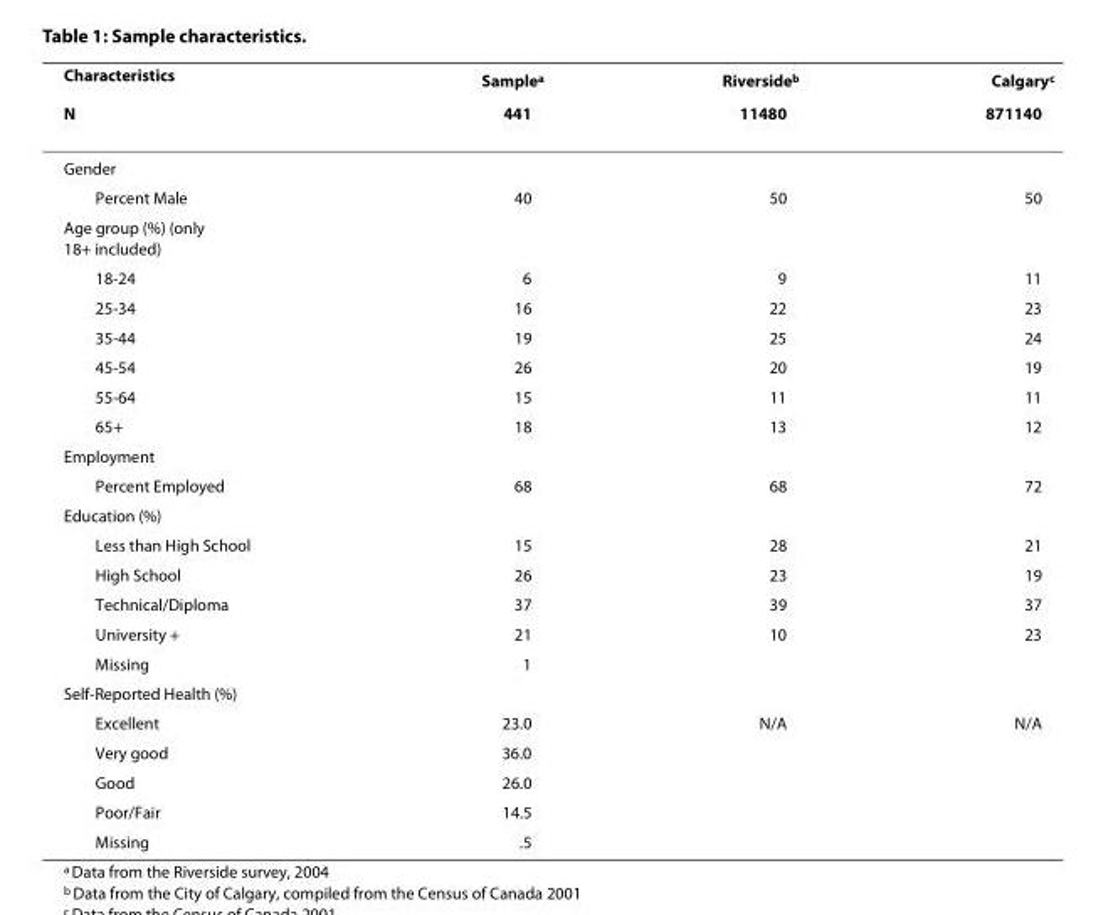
<table><thead><tr><td rowspan="2">Characteristics N</td><td rowspan="2">Sample<sup>a</sup> 441</td><td rowspan="2">Riverside<sup>b</sup> 11480</td><td rowspan="2">Calgary<sup>c</sup> 871140</td></tr><tr></tr></thead><tbody><tr><td colspan="4">Gender</td></tr><tr><td>Percent Male</td><td>40</td><td>50</td><td>50</td></tr><tr><td colspan="4">Age group (%) (only 18+ included)</td></tr><tr><td>18-24</td><td>6</td><td>9</td><td>11</td></tr><tr><td>25-34</td><td>16</td><td>22</td><td>23</td></tr><tr><td>35-44</td><td>19</td><td>25</td><td>24</td></tr><tr><td>45-54</td><td>26</td><td>20</td><td>19</td></tr><tr><td>55-64</td><td>15</td><td>11</td><td>11</td></tr><tr><td>65+</td><td>18</td><td>13</td><td>12</td></tr><tr><td colspan="4">Employment</td></tr><tr><td>Percent Employed</td><td>68</td><td>68</td><td>72</td></tr><tr><td colspan="4">Education (%)</td></tr><tr><td>Less than High School</td><td>15</td><td>28</td><td>21</td></tr><tr><td>High School</td><td>26</td><td>23</td><td>19</td></tr><tr><td>Technical/Diploma</td><td>37</td><td>39</td><td>37</td></tr><tr><td>University +</td><td>21</td><td>10</td><td>23</td></tr><tr><td>Missing</td><td>1</td><td></td><td></td></tr><tr><td colspan="4">Self-Reported Health (%)</td></tr><tr><td>Excellent</td><td>23.0</td><td>N/A</td><td>N/A</td></tr><tr><td>Very good</td><td>36.0</td><td></td><td></td></tr><tr><td>Good</td><td>26.0</td><td></td><td></td></tr><tr><td>Poor/Fair</td><td>14.5</td><td></td><td></td></tr><tr><td>Missing</td><td>.5</td><td></td><td></td></tr></tbody></table>